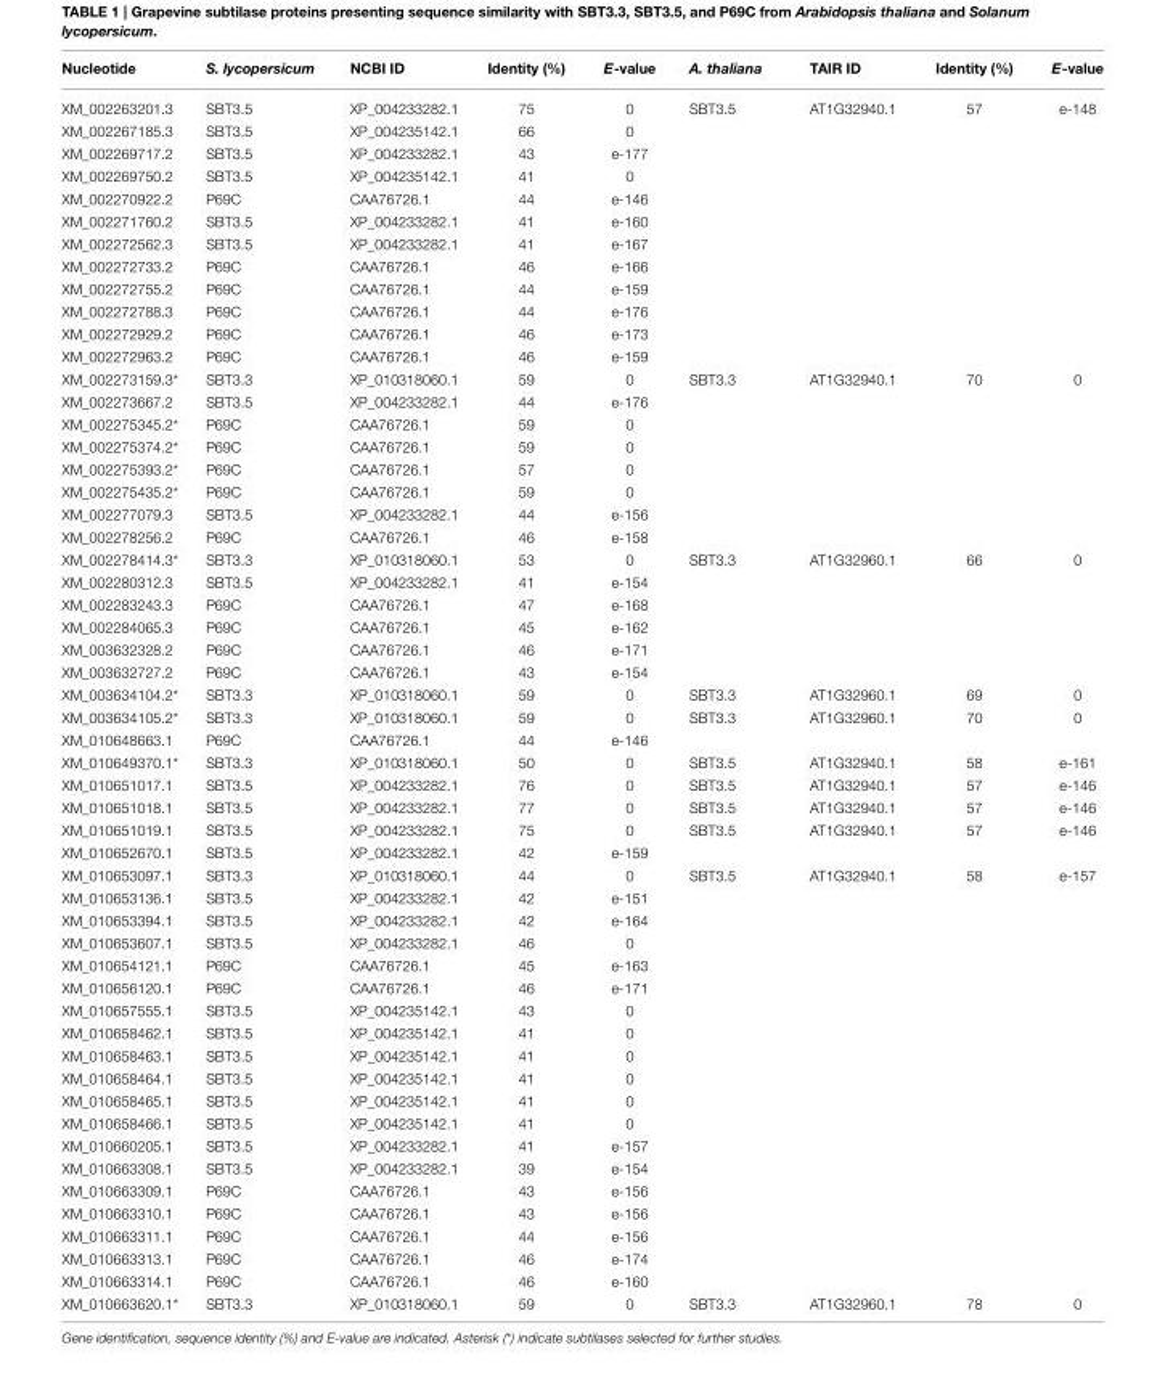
<table><thead><tr><td>Nucleotide</td><td>S. lycopersicum</td><td>NCBI ID</td><td>Identity (%)</td><td>E-value</td><td>A. thaliana</td><td>TAIR ID</td><td>Identity (%)</td><td>E-value</td></tr></thead><tbody><tr><td>XM_002263201.3</td><td>SBT3.5</td><td>XP_004233282.1</td><td>75</td><td>0</td><td>SBT3.5</td><td>AT1G32940.1</td><td>57</td><td>e-148</td></tr><tr><td>XM_002267185.3</td><td>SBT3.5</td><td>XP_004235142.1</td><td>66</td><td>0</td><td></td><td></td><td></td><td></td></tr><tr><td>XM_002269717.2</td><td>SBT3.5</td><td>XP_004233282.1</td><td>43</td><td>e-177</td><td></td><td></td><td></td><td></td></tr><tr><td>XM_002269750.2</td><td>SBT3.5</td><td>XP_004235142.1</td><td>41</td><td>0</td><td></td><td></td><td></td><td></td></tr><tr><td>XM_002270922.2</td><td>P69C</td><td>CAA76726.1</td><td>44</td><td>e-146</td><td></td><td></td><td></td><td></td></tr><tr><td>XM_002271760.2</td><td>SBT3.5</td><td>XP_004233282.1</td><td>41</td><td>e-160</td><td></td><td></td><td></td><td></td></tr><tr><td>XM_002272562.3</td><td>SBT3.5</td><td>XP_004233282.1</td><td>41</td><td>e-167</td><td></td><td></td><td></td><td></td></tr><tr><td>XM_002272733.2</td><td>P69C</td><td>CAA76726.1</td><td>46</td><td>e-166</td><td></td><td></td><td></td><td></td></tr><tr><td>XM_002272755.2</td><td>P69C</td><td>CAA76726.1</td><td>44</td><td>e-159</td><td></td><td></td><td></td><td></td></tr><tr><td>XM_002272788.3</td><td>P69C</td><td>CAA76726.1</td><td>44</td><td>e-176</td><td></td><td></td><td></td><td></td></tr><tr><td>XM_002272929.2</td><td>P69C</td><td>CAA76726.1</td><td>46</td><td>e-173</td><td></td><td></td><td></td><td></td></tr><tr><td>XM_002272963.2</td><td>P69C</td><td>CAA76726.1</td><td>46</td><td>e-159</td><td></td><td></td><td></td><td></td></tr><tr><td>XM_002273159.3*</td><td>SBT3.3</td><td>XP_010318060.1</td><td>59</td><td>0</td><td>SBT3.3</td><td>AT1G32940.1</td><td>70</td><td>0</td></tr><tr><td>XM_002273667.2</td><td>SBT3.5</td><td>XP_004233282.1</td><td>44</td><td>e-176</td><td></td><td></td><td></td><td></td></tr><tr><td>XM_002275345.2*</td><td>P69C</td><td>CAA76726.1</td><td>59</td><td>0</td><td></td><td></td><td></td><td></td></tr><tr><td>XM_002275374.2*</td><td>P69C</td><td>CAA76726.1</td><td>59</td><td>0</td><td></td><td></td><td></td><td></td></tr><tr><td>XM_002275393.2*</td><td>P69C</td><td>CAA76726.1</td><td>57</td><td>0</td><td></td><td></td><td></td><td></td></tr><tr><td>XM_002275435.2*</td><td>P69C</td><td>CAA76726.1</td><td>59</td><td>0</td><td></td><td></td><td></td><td></td></tr><tr><td>XM_002277079.3</td><td>SBT3.5</td><td>XP_004233282.1</td><td>44</td><td>e-156</td><td></td><td></td><td></td><td></td></tr><tr><td>XM_002278256.2</td><td>P69C</td><td>CAA76726.1</td><td>46</td><td>e-158</td><td></td><td></td><td></td><td></td></tr><tr><td>XM_002278414.3*</td><td>SBT3.3</td><td>XP_010318060.1</td><td>53</td><td>0</td><td>SBT3.3</td><td>AT1G32960.1</td><td>66</td><td>0</td></tr><tr><td>XM_002280312.3</td><td>SBT3.5</td><td>XP_004233282.1</td><td>41</td><td>e-154</td><td></td><td></td><td></td><td></td></tr><tr><td>XM_002283243.3</td><td>P69C</td><td>CAA76726.1</td><td>47</td><td>e-168</td><td></td><td></td><td></td><td></td></tr><tr><td>XM_002284065.3</td><td>P69C</td><td>CAA76726.1</td><td>45</td><td>e-162</td><td></td><td></td><td></td><td></td></tr><tr><td>XM_003632328.2</td><td>P69C</td><td>CAA76726.1</td><td>46</td><td>e-171</td><td></td><td></td><td></td><td></td></tr><tr><td>XM_003632727.2</td><td>P69C</td><td>CAA76726.1</td><td>43</td><td>e-154</td><td></td><td></td><td></td><td></td></tr><tr><td>XM_003634104.2*</td><td>SBT3.3</td><td>XP_010318060.1</td><td>59</td><td>0</td><td>SBT3.3</td><td>AT1G32960.1</td><td>69</td><td>0</td></tr><tr><td>XM_003634105.2*</td><td>SBT3.3</td><td>XP_010318060.1</td><td>59</td><td>0</td><td>SBT3.3</td><td>AT1G32960.1</td><td>70</td><td>0</td></tr><tr><td>XM_010648663.1</td><td>P69C</td><td>CAA76726.1</td><td>44</td><td>e-146</td><td></td><td></td><td></td><td></td></tr><tr><td>XM_010649370.1*</td><td>SBT3.3</td><td>XP_010318060.1</td><td>50</td><td>0</td><td>SBT3.5</td><td>AT1G32940.1</td><td>58</td><td>e-161</td></tr><tr><td>XM_010651017.1</td><td>SBT3.5</td><td>XP_004233282.1</td><td>76</td><td>0</td><td>SBT3.5</td><td>AT1G32940.1</td><td>57</td><td>e-146</td></tr><tr><td>XM_010651018.1</td><td>SBT3.5</td><td>XP_004233282.1</td><td>77</td><td>0</td><td>SBT3.5</td><td>AT1G32940.1</td><td>57</td><td>e-146</td></tr><tr><td>XM_010651019.1</td><td>SBT3.5</td><td>XP_004233282.1</td><td>75</td><td>0</td><td>SBT3.5</td><td>AT1G32940.1</td><td>57</td><td>e-146</td></tr><tr><td>XM_010652670.1</td><td>SBT3.5</td><td>XP_004233282.1</td><td>42</td><td>e-159</td><td></td><td></td><td></td><td></td></tr><tr><td>XM_010653097.1</td><td>SBT3.3</td><td>XP_010318060.1</td><td>44</td><td>0</td><td>SBT3.5</td><td>AT1G32940.1</td><td>58</td><td>e-157</td></tr><tr><td>XM_010653136.1</td><td>SBT3.5</td><td>XP_004233282.1</td><td>42</td><td>e-151</td><td></td><td></td><td></td><td></td></tr><tr><td>XM_010653394.1</td><td>SBT3.5</td><td>XP_004233282.1</td><td>42</td><td>e-164</td><td></td><td></td><td></td><td></td></tr><tr><td>XM_010653607.1</td><td>SBT3.5</td><td>XP_004233282.1</td><td>46</td><td>0</td><td></td><td></td><td></td><td></td></tr><tr><td>XM_010654121.1</td><td>P69C</td><td>CAA76726.1</td><td>45</td><td>e-163</td><td></td><td></td><td></td><td></td></tr><tr><td>XM_010656120.1</td><td>P69C</td><td>CAA76726.1</td><td>46</td><td>e-171</td><td></td><td></td><td></td><td></td></tr><tr><td>XM_010657555.1</td><td>SBT3.5</td><td>XP_004235142.1</td><td>43</td><td>0</td><td></td><td></td><td></td><td></td></tr><tr><td>XM_010658462.1</td><td>SBT3.5</td><td>XP_004235142.1</td><td>41</td><td>0</td><td></td><td></td><td></td><td></td></tr><tr><td>XM_010658463.1</td><td>SBT3.5</td><td>XP_004235142.1</td><td>41</td><td>0</td><td></td><td></td><td></td><td></td></tr><tr><td>XM_010658464.1</td><td>SBT3.5</td><td>XP_004235142.1</td><td>41</td><td>0</td><td></td><td></td><td></td><td></td></tr><tr><td>XM_010658465.1</td><td>SBT3.5</td><td>XP_004235142.1</td><td>41</td><td>0</td><td></td><td></td><td></td><td></td></tr><tr><td>XM_010658466.1</td><td>SBT3.5</td><td>XP_004235142.1</td><td>41</td><td>0</td><td></td><td></td><td></td><td></td></tr><tr><td>XM_010660205.1</td><td>SBT3.5</td><td>XP_004233282.1</td><td>41</td><td>e-157</td><td></td><td></td><td></td><td></td></tr><tr><td>XM_010663308.1</td><td>SBT3.5</td><td>XP_004233282.1</td><td>39</td><td>e-154</td><td></td><td></td><td></td><td></td></tr><tr><td>XM_010663309.1</td><td>P69C</td><td>CAA76726.1</td><td>43</td><td>e-156</td><td></td><td></td><td></td><td></td></tr><tr><td>XM_010663310.1</td><td>P69C</td><td>CAA76726.1</td><td>43</td><td>e-156</td><td></td><td></td><td></td><td></td></tr><tr><td>XM_010663311.1</td><td>P69C</td><td>CAA76726.1</td><td>44</td><td>e-156</td><td></td><td></td><td></td><td></td></tr><tr><td>XM_010663313.1</td><td>P69C</td><td>CAA76726.1</td><td>46</td><td>e-174</td><td></td><td></td><td></td><td></td></tr><tr><td>XM_010663314.1</td><td>P69C</td><td>CAA76726.1</td><td>46</td><td>e-160</td><td></td><td></td><td></td><td></td></tr><tr><td>XM_010663620.1*</td><td>SBT3.3</td><td>XP_010318060.1</td><td>59</td><td>0</td><td>SBT3.3</td><td>AT1G32960.1</td><td>78</td><td>0</td></tr></tbody></table>